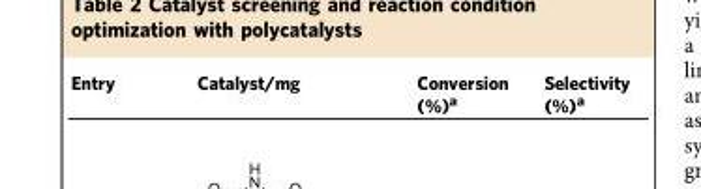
<table><thead><tr><td>Entry</td><td>Catalyst/mg</td><td>Conversion (%)<sup>a</sup></td><td>Selectivity (%)<sup>a</sup></td></tr></thead><tbody></tbody></table>